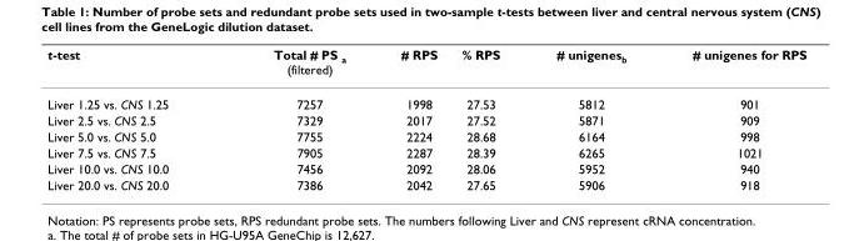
<table><thead><tr><td>t-test</td><td>Total # PS a (filtered)</td><td># RPS</td><td>% RPS</td><td># unigenesb</td><td># unigenes for RPS</td></tr></thead><tbody><tr><td>Liver 1.25 vs. CNS 1.25</td><td>7257</td><td>1998</td><td>27.53</td><td>5812</td><td>901</td></tr><tr><td>Liver 2.5 vs. CNS 2.5</td><td>7329</td><td>2017</td><td>27.52</td><td>5871</td><td>909</td></tr><tr><td>Liver 5.0 vs. CNS 5.0</td><td>7755</td><td>2224</td><td>28.68</td><td>6164</td><td>998</td></tr><tr><td>Liver 7.5 vs. CNS 7.5</td><td>7905</td><td>2287</td><td>28.39</td><td>6265</td><td>1021</td></tr><tr><td>Liver 10.0 vs. CNS 10.0</td><td>7456</td><td>2092</td><td>28.06</td><td>5952</td><td>940</td></tr><tr><td>Liver 20.0 vs. CNS 20.0</td><td>7386</td><td>2042</td><td>27.65</td><td>5906</td><td>918</td></tr></tbody></table>